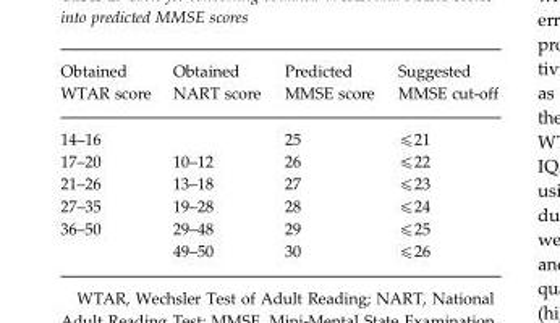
<table><thead><tr><td>Obtained WTAR score</td><td>Obtained NART score</td><td>Predicted MMSE score</td><td>Suggested MMSE cut-off</td></tr></thead><tbody><tr><td>14–16</td><td></td><td>25</td><td>⩽21</td></tr><tr><td>17–20</td><td>10–12</td><td>26</td><td>⩽22</td></tr><tr><td>21–26</td><td>13–18</td><td>27</td><td>⩽23</td></tr><tr><td>27–35</td><td>19–28</td><td>28</td><td>⩽24</td></tr><tr><td rowspan="2">36–50</td><td>29–48</td><td>29</td><td>⩽25</td></tr><tr><td>49–50</td><td>30</td><td>⩽26</td></tr></tbody></table>